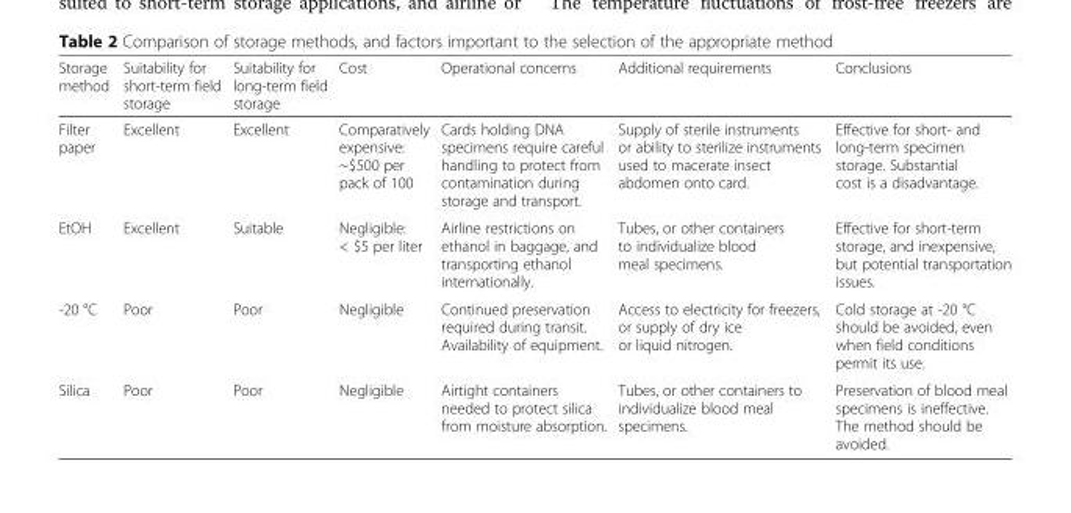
<table><thead><tr><td>Storage method</td><td>Suitability for short-term field storage</td><td>Suitability for long-term field storage</td><td>Cost</td><td>Operational concerns</td><td>Additional requirements</td><td>Conclusions</td></tr></thead><tbody><tr><td>Filter paper</td><td>Excellent</td><td>Excellent</td><td>Comparatively expensive: ~$500 per pack of 100</td><td>Cards holding DNA specimens require careful handling to protect from contamination during storage and transport.</td><td>Supply of sterile instruments or ability to sterilize instruments used to macerate insect abdomen onto card.</td><td>Effective for short- and long-term specimen storage. Substantial cost is a disadvantage.</td></tr><tr><td>EtOH</td><td>Excellent</td><td>Suitable</td><td>Negligible: &lt; $5 per liter</td><td>Airline restrictions on ethanol in baggage, and transporting ethanol internationally.</td><td>Tubes, or other containers to individualize blood meal specimens.</td><td>Effective for short-term storage, and inexpensive, but potential transportation issues.</td></tr><tr><td>-20 °C</td><td>Poor</td><td>Poor</td><td>Negligible</td><td>Continued preservation required during transit. Availability of equipment.</td><td>Access to electricity for freezers, or supply of dry ice or liquid nitrogen.</td><td>Cold storage at -20 °C should be avoided, even when field conditions permit its use.</td></tr><tr><td>Silica</td><td>Poor</td><td>Poor</td><td>Negligible</td><td>Airtight containers needed to protect silica from moisture absorption.</td><td>Tubes, or other containers to individualize blood meal specimens.</td><td>Preservation of blood meal specimens is ineffective. The method should be avoided.</td></tr></tbody></table>